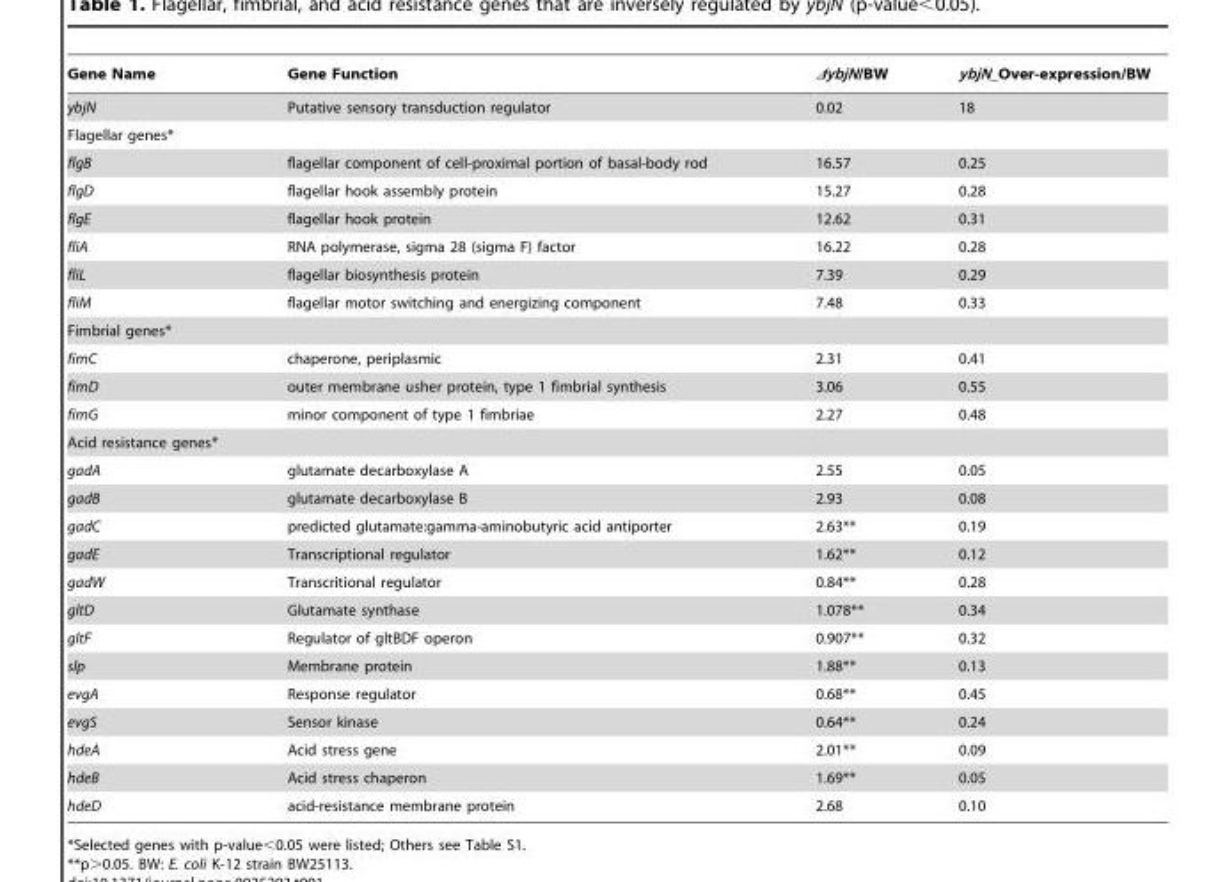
<table><thead><tr><td>Gene Name</td><td>Gene Function</td><td>ΔybjN/BW</td><td>ybjN_Over-expression/BW</td></tr></thead><tbody><tr><td>ybjN</td><td>Putative sensory transduction regulator</td><td>0.02</td><td>18</td></tr><tr><td colspan="4">Flagellar genes*</td></tr><tr><td>flgB</td><td>flagellar component of cell-proximal portion of basal-body rod</td><td>16.57</td><td>0.25</td></tr><tr><td>flgD</td><td>flagellar hook assembly protein</td><td>15.27</td><td>0.28</td></tr><tr><td>flgE</td><td>flagellar hook protein</td><td>12.62</td><td>0.31</td></tr><tr><td>fliA</td><td>RNA polymerase, sigma 28 (sigma F) factor</td><td>16.22</td><td>0.28</td></tr><tr><td>fliL</td><td>flagellar biosynthesis protein</td><td>7.39</td><td>0.29</td></tr><tr><td>fliM</td><td>flagellar motor switching and energizing component</td><td>7.48</td><td>0.33</td></tr><tr><td colspan="4">Fimbrial genes*</td></tr><tr><td>fimC</td><td>chaperone, periplasmic</td><td>2.31</td><td>0.41</td></tr><tr><td>fimD</td><td>outer membrane usher protein, type 1 fimbrial synthesis</td><td>3.06</td><td>0.55</td></tr><tr><td>fimG</td><td>minor component of type 1 fimbriae</td><td>2.27</td><td>0.48</td></tr><tr><td colspan="4">Acid resistance genes*</td></tr><tr><td>gadA</td><td>glutamate decarboxylase A</td><td>2.55</td><td>0.05</td></tr><tr><td>gadB</td><td>glutamate decarboxylase B</td><td>2.93</td><td>0.08</td></tr><tr><td>gadC</td><td>predicted glutamate:gamma-aminobutyric acid antiporter</td><td>2.63**</td><td>0.19</td></tr><tr><td>gadE</td><td>Transcriptional regulator</td><td>1.62**</td><td>0.12</td></tr><tr><td>gadW</td><td>Transcritional regulator</td><td>0.84**</td><td>0.28</td></tr><tr><td>gltD</td><td>Glutamate synthase</td><td>1.078**</td><td>0.34</td></tr><tr><td>gltF</td><td>Regulator of gltBDF operon</td><td>0.907**</td><td>0.32</td></tr><tr><td>slp</td><td>Membrane protein</td><td>1.88**</td><td>0.13</td></tr><tr><td>evgA</td><td>Response regulator</td><td>0.68**</td><td>0.45</td></tr><tr><td>evgS</td><td>Sensor kinase</td><td>0.64**</td><td>0.24</td></tr><tr><td>hdeA</td><td>Acid stress gene</td><td>2.01**</td><td>0.09</td></tr><tr><td>hdeB</td><td>Acid stress chaperon</td><td>1.69**</td><td>0.05</td></tr><tr><td>hdeD</td><td>acid-resistance membrane protein</td><td>2.68</td><td>0.10</td></tr></tbody></table>